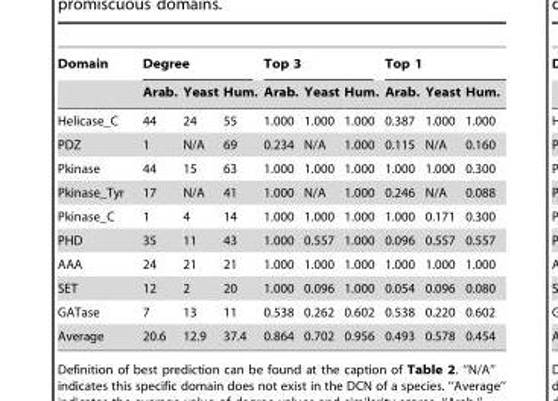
<table><thead><tr><td rowspan="2">Domain</td><td colspan="3">Degree</td><td colspan="3">Top 3</td><td colspan="3">Top 1</td></tr><tr><td>Arab.</td><td>Yeast</td><td>Hum.</td><td>Arab.</td><td>Yeast</td><td>Hum.</td><td>Arab.</td><td>Yeast</td><td>Hum.</td></tr></thead><tbody><tr><td>Helicase_C</td><td>44</td><td>24</td><td>55</td><td>1.000</td><td>1.000</td><td>1.000</td><td>0.387</td><td>1.000</td><td>1.000</td></tr><tr><td>PDZ</td><td>1</td><td>N/A</td><td>69</td><td>0.234</td><td>N/A</td><td>1.000</td><td>0.115</td><td>N/A</td><td>0.160</td></tr><tr><td>Pkinase</td><td>44</td><td>15</td><td>63</td><td>1.000</td><td>1.000</td><td>1.000</td><td>1.000</td><td>1.000</td><td>0.300</td></tr><tr><td>Pkinase_Tyr</td><td>17</td><td>N/A</td><td>41</td><td>1.000</td><td>N/A</td><td>1.000</td><td>0.246</td><td>N/A</td><td>0.088</td></tr><tr><td>Pkinase_C</td><td>1</td><td>4</td><td>14</td><td>1.000</td><td>1.000</td><td>1.000</td><td>1.000</td><td>0.171</td><td>0.300</td></tr><tr><td>PHD</td><td>35</td><td>11</td><td>43</td><td>1.000</td><td>0.557</td><td>1.000</td><td>0.096</td><td>0.557</td><td>0.557</td></tr><tr><td>AAA</td><td>24</td><td>21</td><td>21</td><td>1.000</td><td>1.000</td><td>1.000</td><td>1.000</td><td>1.000</td><td>1.000</td></tr><tr><td>SET</td><td>12</td><td>2</td><td>20</td><td>1.000</td><td>0.096</td><td>1.000</td><td>0.054</td><td>0.096</td><td>0.080</td></tr><tr><td>GATase</td><td>7</td><td>13</td><td>11</td><td>0.538</td><td>0.262</td><td>0.602</td><td>0.538</td><td>0.220</td><td>0.602</td></tr><tr><td>Average</td><td>20.6</td><td>12.9</td><td>37.4</td><td>0.864</td><td>0.702</td><td>0.956</td><td>0.493</td><td>0.578</td><td>0.454</td></tr></tbody></table>